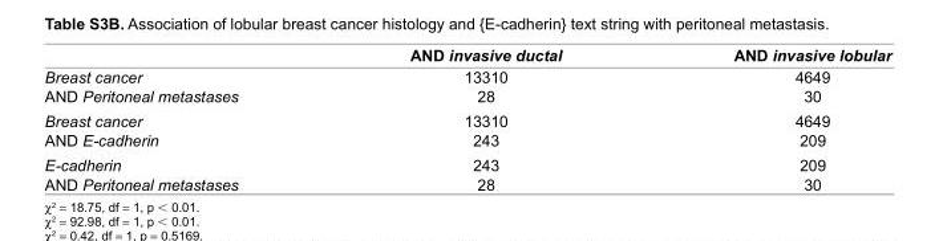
<table><thead><tr><td></td><td>AnD invasive ductal</td><td>AnD invasive lobular</td></tr></thead><tbody><tr><td>Breast cancer</td><td>13310</td><td>4649</td></tr><tr><td>AnD Peritoneal metastases</td><td>28</td><td>30</td></tr><tr><td>Breast cancer</td><td>13310</td><td>4649</td></tr><tr><td>AnD E-cadherin</td><td>243</td><td>209</td></tr><tr><td>E-cadherin</td><td>243</td><td>209</td></tr><tr><td>AnD Peritoneal metastases</td><td>28</td><td>30</td></tr></tbody></table>